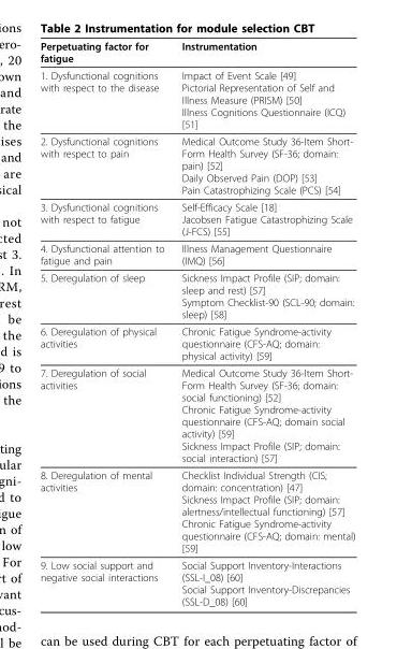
<table><thead><tr><td>Perpetuating factor for fatigue</td><td>Instrumentation</td></tr></thead><tbody><tr><td>1. Dysfunctional cognitions with respect to the disease</td><td>Impact of Event Scale [49] Pictorial Representation of Self and Illness Measure (PRISM) [50] Illness Cognitions Questionnaire (ICQ) [51]</td></tr><tr><td>2. Dysfunctional cognitions with respect to pain</td><td>Medical Outcome Study 36-Item Short- Form Health Survey (SF-36; domain: pain) [52] Daily Observed Pain (DOP) [53] Pain Catastrophizing Scale (PCS) [54]</td></tr><tr><td>3. Dysfunctional cognitions with respect to fatigue</td><td>Self-Efficacy Scale [18] Jacobsen Fatigue Catastrophizing Scale (J-FCS) [55]</td></tr><tr><td>4. Dysfunctional attention to fatigue and pain</td><td>Illness Management Questionnaire (IMQ) [56]</td></tr><tr><td>5. Deregulation of sleep</td><td>Sickness Impact Profile (SIP; domain: sleep and rest) [57] Symptom Checklist-90 (SCL-90; domain: sleep) [58]</td></tr><tr><td>6. Deregulation of physical activities</td><td>Chronic Fatigue Syndrome-activity questionnaire (CFS-AQ; domain: physical activity) [59]</td></tr><tr><td>7. Deregulation of social activities</td><td>Medical Outcome Study 36-Item Short- Form Health Survey (SF-36; domain: social functioning) [52] Chronic Fatigue Syndrome-activity questionnaire (CFS-AQ; domain social activity) [59] Sickness Impact Profile (SIP; domain: social interaction) [57]</td></tr><tr><td>8. Deregulation of mental activities</td><td>Checklist Individual Strength (CIS; domain: concentration) [47] Sickness Impact Profile (SIP; domain: alertness/intellectual functioning) [57] Chronic Fatigue Syndrome-activity questionnaire (CFS-AQ; domain: mental) [59]</td></tr><tr><td>9. Low social support and negative social interactions</td><td>Social Support Inventory-Interactions (SSL-I_08) [60] Social Support Inventory-Discrepancies (SSL-D_08) [60]</td></tr></tbody></table>